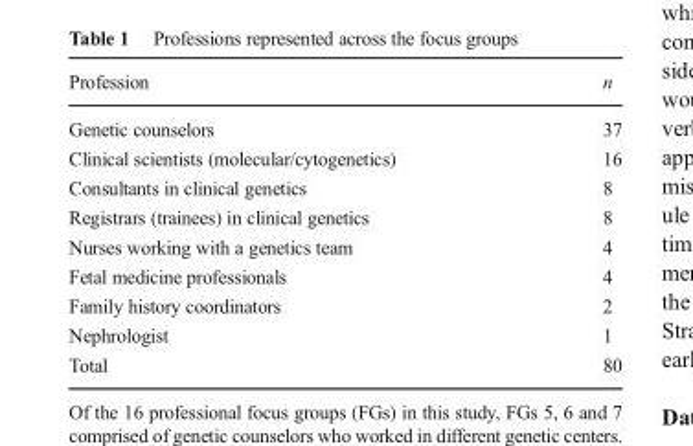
<table><thead><tr><td>Profession</td><td>n</td></tr></thead><tbody><tr><td>Genetic counselors</td><td>37</td></tr><tr><td>Clinical scientists (molecular/cytogenetics)</td><td>16</td></tr><tr><td>Consultants in clinical genetics</td><td>8</td></tr><tr><td>Registrars (trainees) in clinical genetics</td><td>8</td></tr><tr><td>Nurses working with a genetics team</td><td>4</td></tr><tr><td>Fetal medicine professionals</td><td>4</td></tr><tr><td>Family history coordinators</td><td>2</td></tr><tr><td>Nephrologist</td><td>1</td></tr><tr><td>Total</td><td>80</td></tr></tbody></table>